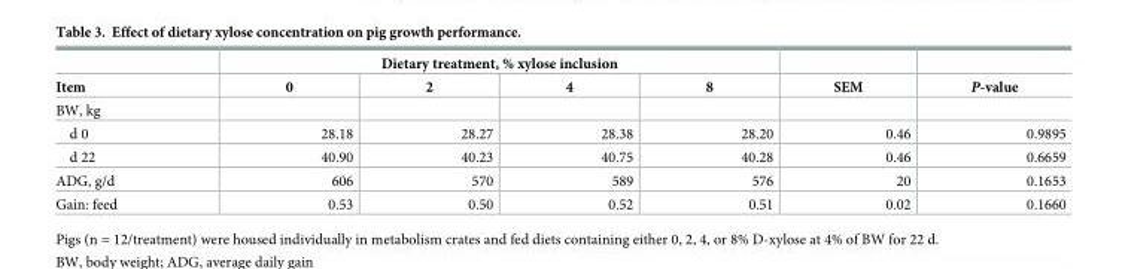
<table><thead><tr><td rowspan="2">Item</td><td colspan="4">Dietary treatment, % xylose inclusion</td><td rowspan="2">SEM</td><td rowspan="2">P-value</td></tr><tr><td>0</td><td>2</td><td>4</td><td>8</td></tr></thead><tbody><tr><td colspan="7">BW, kg</td></tr><tr><td>d 0</td><td>28.18</td><td>28.27</td><td>28.38</td><td>28.20</td><td>0.46</td><td>0.9895</td></tr><tr><td>d 22</td><td>40.90</td><td>40.23</td><td>40.75</td><td>40.28</td><td>0.46</td><td>0.6659</td></tr><tr><td>ADG, g/d</td><td>606</td><td>570</td><td>589</td><td>576</td><td>20</td><td>0.1653</td></tr><tr><td>Gain: feed</td><td>0.53</td><td>0.50</td><td>0.52</td><td>0.51</td><td>0.02</td><td>0.1660</td></tr></tbody></table>